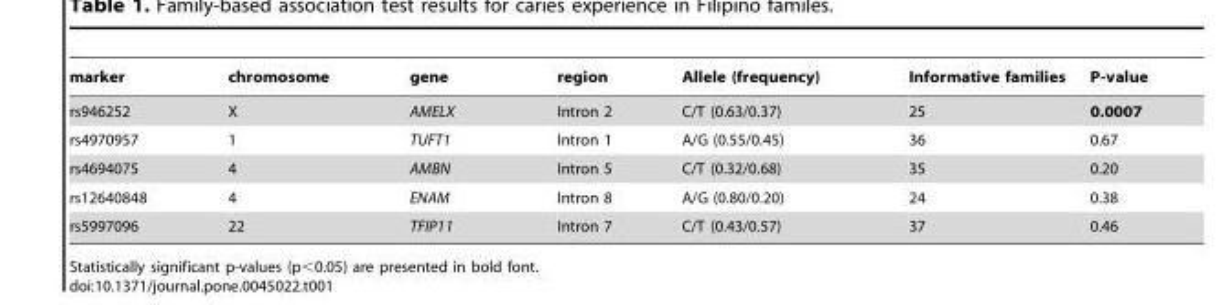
<table><thead><tr><td>marker</td><td>chromosome</td><td>gene</td><td>region</td><td>Allele (frequency)</td><td>Informative families</td><td>P-value</td></tr></thead><tbody><tr><td>rs946252</td><td>X</td><td>AMELX</td><td>Intron 2</td><td>C/T (0.63/0.37)</td><td>25</td><td>0.0007</td></tr><tr><td>rs4970957</td><td>1</td><td>TUFT1</td><td>Intron 1</td><td>A/G (0.55/0.45)</td><td>36</td><td>0.67</td></tr><tr><td>rs4694075</td><td>4</td><td>AMBN</td><td>Intron 5</td><td>C/T (0.32/0.68)</td><td>35</td><td>0.20</td></tr><tr><td>rs12640848</td><td>4</td><td>ENAM</td><td>Intron 8</td><td>A/G (0.80/0.20)</td><td>24</td><td>0.38</td></tr><tr><td>rs5997096</td><td>22</td><td>TFIP11</td><td>Intron 7</td><td>C/T (0.43/0.57)</td><td>37</td><td>0.46</td></tr></tbody></table>